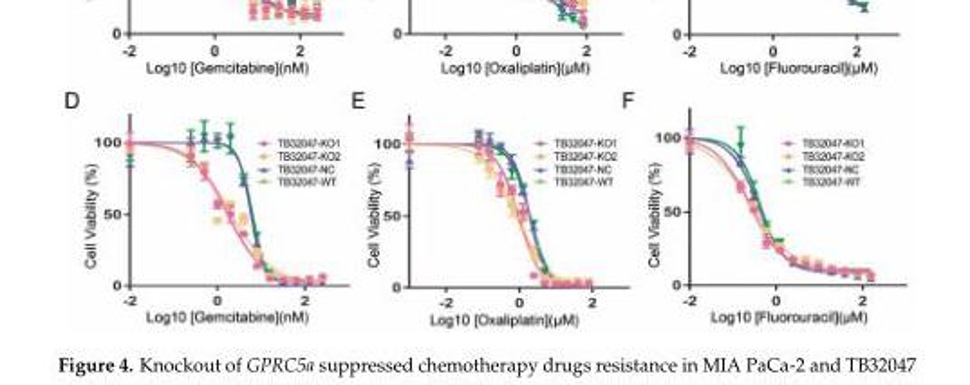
<table><thead><tr><td rowspan="2">Cells</td><td colspan="2">Gemcitabine (nM)</td><td colspan="2">Oxaliplatin (µM)</td><td colspan="2">Fluorouracil (µM)</td></tr><tr><td>EC50</td><td>95% CI</td><td>EC50</td><td>95% CI</td><td>EC50</td><td>95% CI</td></tr></thead><tbody><tr><td>MIA PaCa-2-KO1</td><td>0.455</td><td>0.305–0.605</td><td>0.224</td><td>0.169–0.300</td><td>4.642</td><td>3.577–6.340</td></tr><tr><td>MIA PaCa-2-KO2</td><td>0.476</td><td>0.322–0.665</td><td>0.357</td><td>0.210–0.661</td><td>4.502</td><td>3.720–5.525</td></tr><tr><td>MIA PaCa-2-NC</td><td>1.458</td><td>1.128–1.938</td><td>1.015</td><td>0.628–2.011</td><td>6.675</td><td>5.406–8.424</td></tr><tr><td>MIA PaCa-2-WT</td><td>1.546</td><td>1.122–2.146</td><td>1.171</td><td>0.614–4.312</td><td>6.777</td><td>5.321–9.061</td></tr><tr><td>TB32047-KO1</td><td>0.240</td><td>0.212–0.268</td><td>1.661</td><td>1.378–2.000</td><td>0.962</td><td>0.772–1.179</td></tr><tr><td>TB32047-KO2</td><td>0.274</td><td>0.242–0.306</td><td>2.084</td><td>1.487–2.931</td><td>0.828</td><td>0.666–1.024</td></tr><tr><td>TB32047-NC</td><td>0.384</td><td>0.345–4.266</td><td>5.774</td><td>5.309–6.281</td><td>1.894</td><td>1.713–2.092</td></tr><tr><td>TB32047-WT</td><td>0.413</td><td>0.353–0.486</td><td>6.178</td><td>5.589–6.830</td><td>1.947</td><td>1.743–2.168</td></tr></tbody></table>